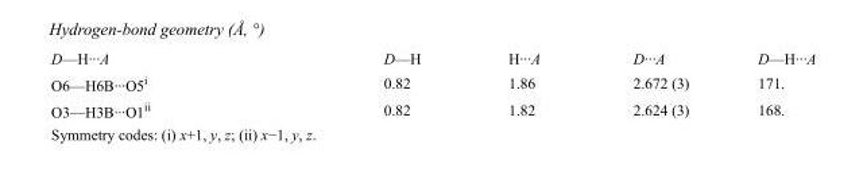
<table><tbody><tr><td>D—H···A</td><td>D—H</td><td>H···A</td><td>D···A</td><td>D—H···A</td></tr><tr><td>O6—H6B···O5<sup>i</sup></td><td>0.82</td><td>1.86</td><td>2.672 (3)</td><td>171.</td></tr><tr><td>O3—H3B···O1<sup>ii</sup></td><td>0.82</td><td>1.82</td><td>2.624 (3)</td><td>168.</td></tr></tbody></table>